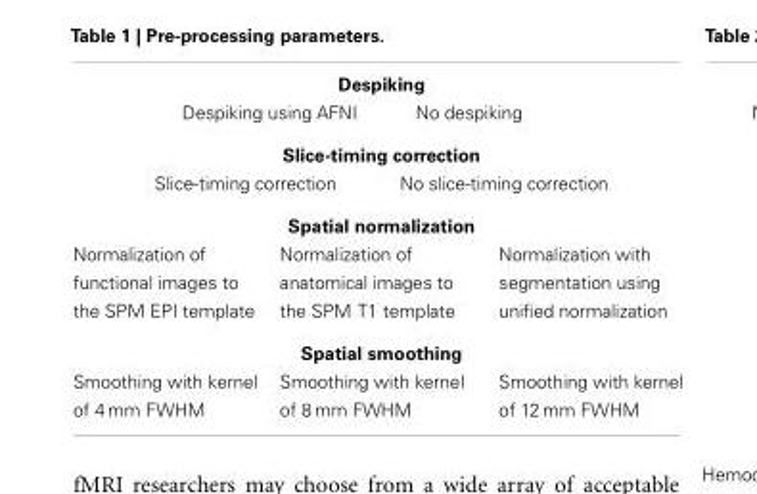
<table><tbody><tr><td colspan="4">Despiking</td></tr><tr><td colspan="2">Despiking using AFNI</td><td colspan="2">No despiking</td></tr><tr><td colspan="4">Slice-timing correction</td></tr><tr><td colspan="2">Slice-timing correction</td><td colspan="2">No slice-timing correction</td></tr><tr><td colspan="4">Spatial normalization</td></tr><tr><td>Normalization of functional images to the SPM EPI template</td><td colspan="2">Normalization of anatomical images to the SPM T1 template</td><td>Normalization with segmentation using unified normalization</td></tr><tr><td colspan="4">Spatial smoothing</td></tr><tr><td>Smoothing with kernel of 4 mm FWHM</td><td colspan="2">Smoothing with kernel of 8 mm FWHM</td><td>Smoothing with kernel of 12 mm FWHM</td></tr></tbody></table>